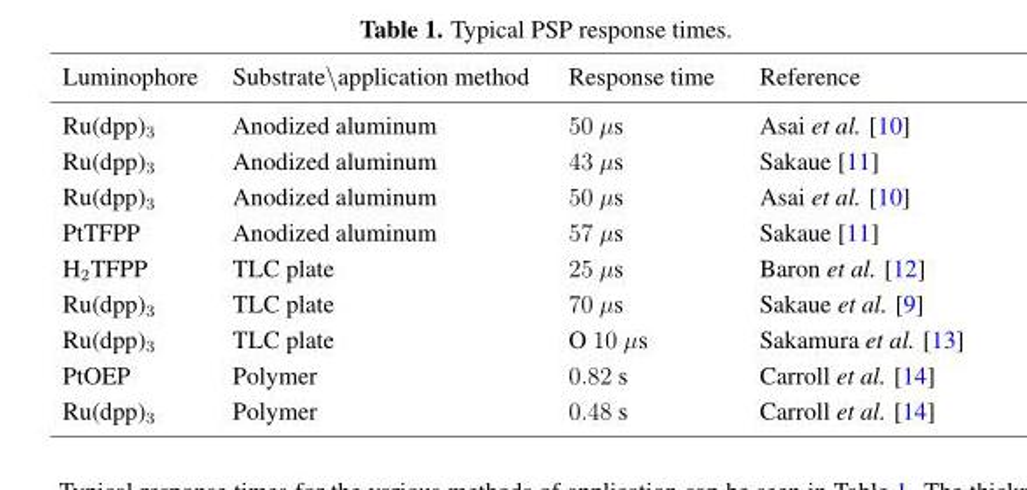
<table><thead><tr><td>Luminophore</td><td>Substrate\application method</td><td>Response time</td><td>Reference</td></tr></thead><tbody><tr><td>Ru(dpp)<sub>3</sub></td><td>Anodized aluminum</td><td>50 µs</td><td>Asai et al. [10]</td></tr><tr><td>Ru(dpp)<sub>3</sub></td><td>Anodized aluminum</td><td>43 µs</td><td>Sakaue [11]</td></tr><tr><td>Ru(dpp)<sub>3</sub></td><td>Anodized aluminum</td><td>50 µs</td><td>Asai et al. [10]</td></tr><tr><td>PtTFPP</td><td>Anodized aluminum</td><td>57 µs</td><td>Sakaue [11]</td></tr><tr><td>H<sub>2</sub>TFPP</td><td>TLC plate</td><td>25 µs</td><td>Baron et al. [12]</td></tr><tr><td>Ru(dpp)<sub>3</sub></td><td>TLC plate</td><td>70 µs</td><td>Sakaue et al. [9]</td></tr><tr><td>Ru(dpp)<sub>3</sub></td><td>TLC plate</td><td>O 10 µs</td><td>Sakamura et al. [13]</td></tr><tr><td>PtOEP</td><td>Polymer</td><td>0.82 s</td><td>Carroll et al. [14]</td></tr><tr><td>Ru(dpp)<sub>3</sub></td><td>Polymer</td><td>0.48 s</td><td>Carroll et al. [14]</td></tr></tbody></table>